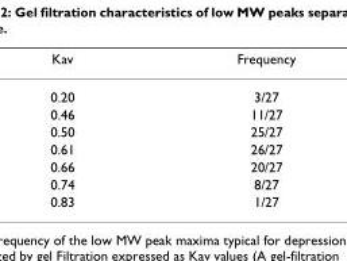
<table><thead><tr><td>Kav</td><td>Frequency</td></tr></thead><tbody><tr><td>0.20</td><td>3/27</td></tr><tr><td>0.46</td><td>11/27</td></tr><tr><td>0.50</td><td>25/27</td></tr><tr><td>0.61</td><td>26/27</td></tr><tr><td>0.66</td><td>20/27</td></tr><tr><td>0.74</td><td>8/27</td></tr><tr><td>0.83</td><td>1/27</td></tr></tbody></table>